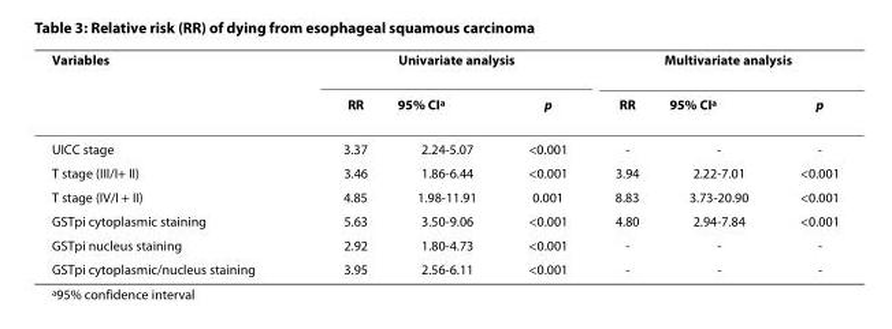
<table><thead><tr><td rowspan="2">Variables</td><td colspan="3">Univariate analysis</td><td colspan="3">Multivariate analysis</td></tr><tr><td>RR</td><td>95% CI<sup>a</sup></td><td>p</td><td>RR</td><td>95% CI<sup>a</sup></td><td>p</td></tr></thead><tbody><tr><td>UICC stage</td><td>3.37</td><td>2.24-5.07</td><td>&lt;0.001</td><td>-</td><td>-</td><td>-</td></tr><tr><td>T stage (III/I+ II)</td><td>3.46</td><td>1.86-6.44</td><td>&lt;0.001</td><td>3.94</td><td>2.22-7.01</td><td>&lt;0.001</td></tr><tr><td>T stage (IV/I + II)</td><td>4.85</td><td>1.98-11.91</td><td>0.001</td><td>8.83</td><td>3.73-20.90</td><td>&lt;0.001</td></tr><tr><td>GSTpi cytoplasmic staining</td><td>5.63</td><td>3.50-9.06</td><td>&lt;0.001</td><td>4.80</td><td>2.94-7.84</td><td>&lt;0.001</td></tr><tr><td>GSTpi nucleus staining</td><td>2.92</td><td>1.80-4.73</td><td>&lt;0.001</td><td>-</td><td>-</td><td>-</td></tr><tr><td>GSTpi cytoplasmic/nucleus staining</td><td>3.95</td><td>2.56-6.11</td><td>&lt;0.001</td><td>-</td><td>-</td><td>-</td></tr></tbody></table>